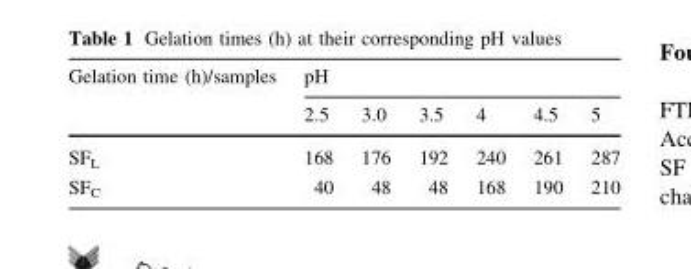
<table><thead><tr><td rowspan="2">Gelation time (h)/samples</td><td colspan="6">pH</td></tr><tr><td>2.5</td><td>3.0</td><td>3.5</td><td>4</td><td>4.5</td><td>5</td></tr></thead><tbody><tr><td>SF<sub>L</sub></td><td>168</td><td>176</td><td>192</td><td>240</td><td>261</td><td>287</td></tr><tr><td>SF<sub>C</sub></td><td>40</td><td>48</td><td>48</td><td>168</td><td>190</td><td>210</td></tr></tbody></table>